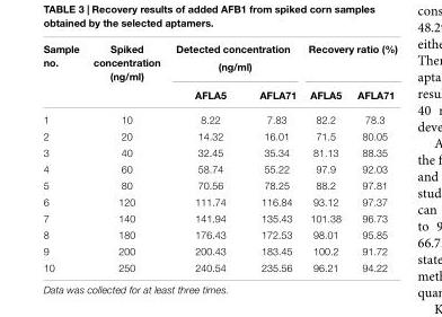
<table><thead><tr><td rowspan="2">Sample no.</td><td rowspan="2">Spiked concentration (ng/ml)</td><td colspan="2">Detected concentration (ng/ml)</td><td colspan="2">Recovery ratio (%)</td></tr><tr><td>AFLA5</td><td>AFLA71</td><td>AFLA5</td><td>AFLA71</td></tr></thead><tbody><tr><td>1</td><td>10</td><td>8.22</td><td>7.83</td><td>82.2</td><td>78.3</td></tr><tr><td>2</td><td>20</td><td>14.32</td><td>16.01</td><td>71.5</td><td>80.05</td></tr><tr><td>3</td><td>40</td><td>32.45</td><td>35.34</td><td>81.13</td><td>88.35</td></tr><tr><td>4</td><td>60</td><td>58.74</td><td>55.22</td><td>97.9</td><td>92.03</td></tr><tr><td>5</td><td>80</td><td>70.56</td><td>78.25</td><td>88.2</td><td>97.81</td></tr><tr><td>6</td><td>120</td><td>111.74</td><td>116.84</td><td>93.12</td><td>97.37</td></tr><tr><td>7</td><td>140</td><td>141.94</td><td>135.43</td><td>101.38</td><td>96.73</td></tr><tr><td>8</td><td>180</td><td>176.43</td><td>172.53</td><td>98.01</td><td>95.85</td></tr><tr><td>9</td><td>200</td><td>200.43</td><td>183.45</td><td>100.2</td><td>91.72</td></tr><tr><td>10</td><td>250</td><td>240.54</td><td>235.56</td><td>96.21</td><td>94.22</td></tr></tbody></table>